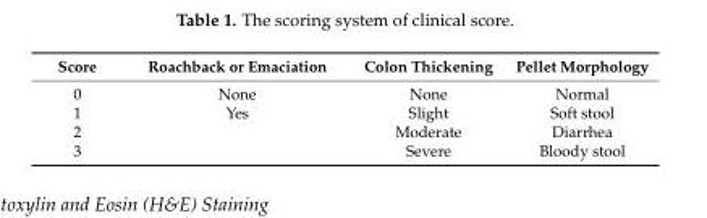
<table><thead><tr><td>Score</td><td>Roachback or Emaciation</td><td>Colon Thickening</td><td>Pellet Morphology</td></tr></thead><tbody><tr><td>0</td><td>None</td><td>None</td><td>Normal</td></tr><tr><td>1</td><td>Yes</td><td>Slight</td><td>Soft stool</td></tr><tr><td>2</td><td></td><td>Moderate</td><td>Diarrhea</td></tr><tr><td>3</td><td></td><td>Severe</td><td>Bloody stool</td></tr></tbody></table>